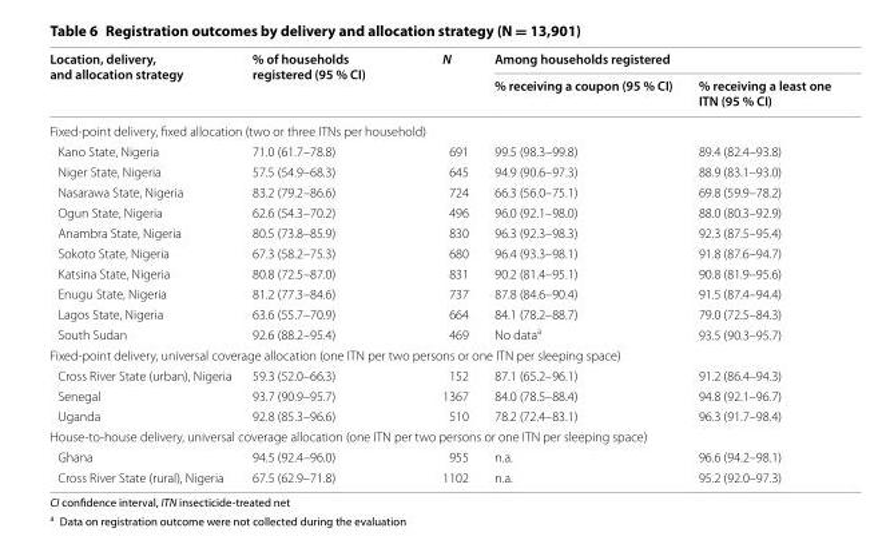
<table><thead><tr><td rowspan="2">Location, delivery, and allocation strategy</td><td rowspan="2">% of households registered (95 % CI)</td><td rowspan="2">N</td><td colspan="2">Among households registered</td></tr><tr><td>% receiving a coupon (95 % CI)</td><td>% receiving a least one ITN (95 % CI)</td></tr></thead><tbody><tr><td colspan="5">Fixed‑point delivery, fixed allocation (two or three ITNs per household)</td></tr><tr><td>Kano State, Nigeria</td><td>71.0 (61.7–78.8)</td><td>691</td><td>99.5 (98.3–99.8)</td><td>89.4 (82.4–93.8)</td></tr><tr><td>Niger State, Nigeria</td><td>57.5 (54.9–68.3)</td><td>645</td><td>94.9 (90.6–97.3)</td><td>88.9 (83.1–93.0)</td></tr><tr><td>Nasarawa State, Nigeria</td><td>83.2 (79.2–86.6)</td><td>724</td><td>66.3 (56.0–75.1)</td><td>69.8 (59.9–78.2)</td></tr><tr><td>Ogun State, Nigeria</td><td>62.6 (54.3–70.2)</td><td>496</td><td>96.0 (92.1–98.0)</td><td>88.0 (80.3–92.9)</td></tr><tr><td>Anambra State, Nigeria</td><td>80.5 (73.8–85.9)</td><td>830</td><td>96.3 (92.3–98.3)</td><td>92.3 (87.5–95.4)</td></tr><tr><td>Sokoto State, Nigeria</td><td>67.3 (58.2–75.3)</td><td>680</td><td>96.4 (93.3–98.1)</td><td>91.8 (87.6–94.7)</td></tr><tr><td>Katsina State, Nigeria</td><td>80.8 (72.5–87.0)</td><td>831</td><td>90.2 (81.4–95.1)</td><td>90.8 (81.9–95.6)</td></tr><tr><td>Enugu State, Nigeria</td><td>81.2 (77.3–84.6)</td><td>737</td><td>87.8 (84.6–90.4)</td><td>91.5 (87.4–94.4)</td></tr><tr><td>Lagos State, Nigeria</td><td>63.6 (55.7–70.9)</td><td>664</td><td>84.1 (78.2–88.7)</td><td>79.0 (72.5–84.3)</td></tr><tr><td>South Sudan</td><td>92.6 (88.2–95.4)</td><td>469</td><td>No data<sup>a</sup></td><td>93.5 (90.3–95.7)</td></tr><tr><td colspan="5">Fixed‑point delivery, universal coverage allocation (one ITN per two persons or one ITN per sleeping space)</td></tr><tr><td>Cross River State (urban), Nigeria</td><td>59.3 (52.0–66.3)</td><td>152</td><td>87.1 (65.2–96.1)</td><td>91.2 (86.4–94.3)</td></tr><tr><td>Senegal</td><td>93.7 (90.9–95.7)</td><td>1367</td><td>84.0 (78.5–88.4)</td><td>94.8 (92.1–96.7)</td></tr><tr><td>Uganda</td><td>92.8 (85.3–96.6)</td><td>510</td><td>78.2 (72.4–83.1)</td><td>96.3 (91.7–98.4)</td></tr><tr><td colspan="5">House‑to‑house delivery, universal coverage allocation (one ITN per two persons or one ITN per sleeping space)</td></tr><tr><td>Ghana</td><td>94.5 (92.4–96.0)</td><td>955</td><td>n.a.</td><td>96.6 (94.2–98.1)</td></tr><tr><td>Cross River State (rural), Nigeria</td><td>67.5 (62.9–71.8)</td><td>1102</td><td>n.a.</td><td>95.2 (92.0–97.3)</td></tr></tbody></table>